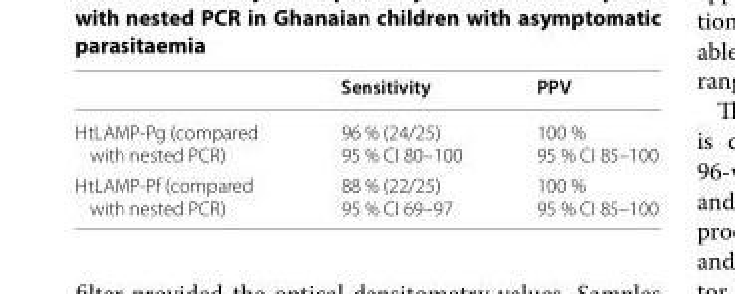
<table><thead><tr><td></td><td>Sensitivity</td><td>PPV</td></tr></thead><tbody><tr><td>HtLAMP-Pg (compared with nested PCR)</td><td>96 % (24/25) 95 % CI 80–100</td><td>100 % 95 % CI 85–100</td></tr><tr><td>HtLAMP-Pf (compared with nested PCR)</td><td>88 % (22/25) 95 % CI 69–97</td><td>100 % 95 % CI 85–100</td></tr></tbody></table>